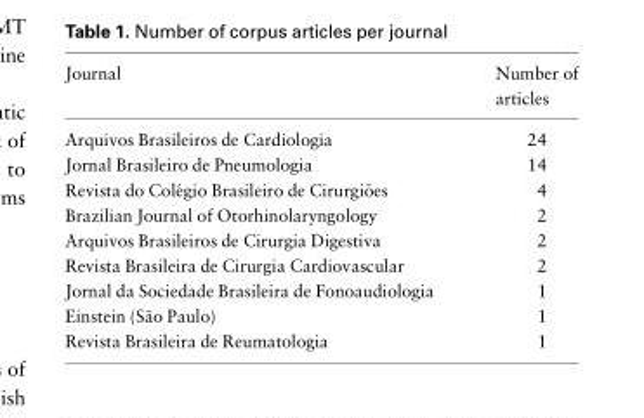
<table><thead><tr><td>Journal</td><td>Number of articles</td></tr></thead><tbody><tr><td>Arquivos Brasileiros de Cardiologia</td><td>24</td></tr><tr><td>Jornal Brasileiro de Pneumologia</td><td>14</td></tr><tr><td>Revista do Cole´gio Brasileiro de Cirurgi~oes</td><td>4</td></tr><tr><td>Brazilian Journal of Otorhinolaryngology</td><td>2</td></tr><tr><td>Arquivos Brasileiros de Cirurgia Digestiva</td><td>2</td></tr><tr><td>Revista Brasileira de Cirurgia Cardiovascular</td><td>2</td></tr><tr><td>Jornal da Sociedade Brasileira de Fonoaudiologia</td><td>1</td></tr><tr><td>Einstein (S~ao Paulo)</td><td>1</td></tr><tr><td>Revista Brasileira de Reumatologia</td><td>1</td></tr></tbody></table>